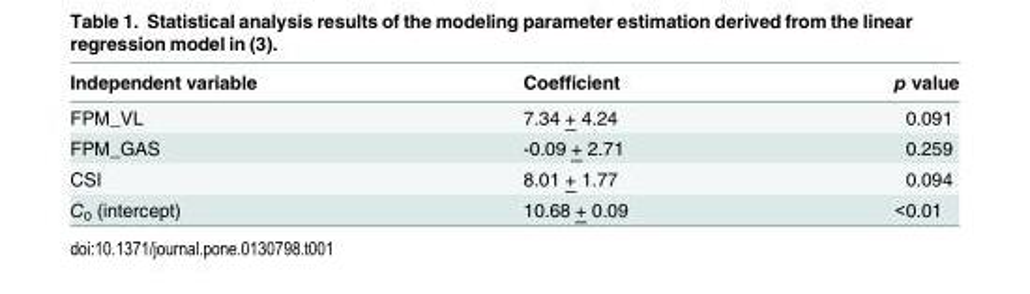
<table><thead><tr><td>Independent variable</td><td>Coefficient</td><td>p value</td></tr></thead><tbody><tr><td>FPM_VL</td><td>7.34 + 4.24</td><td>0.091</td></tr><tr><td>FPM_GAS</td><td>-0.09 + 2.71</td><td>0.259</td></tr><tr><td>CSI</td><td>8.01 + 1.77</td><td>0.094</td></tr><tr><td>C<sub>0</sub> (intercept)</td><td>10.68 + 0.09</td><td>&lt;0.01</td></tr></tbody></table>